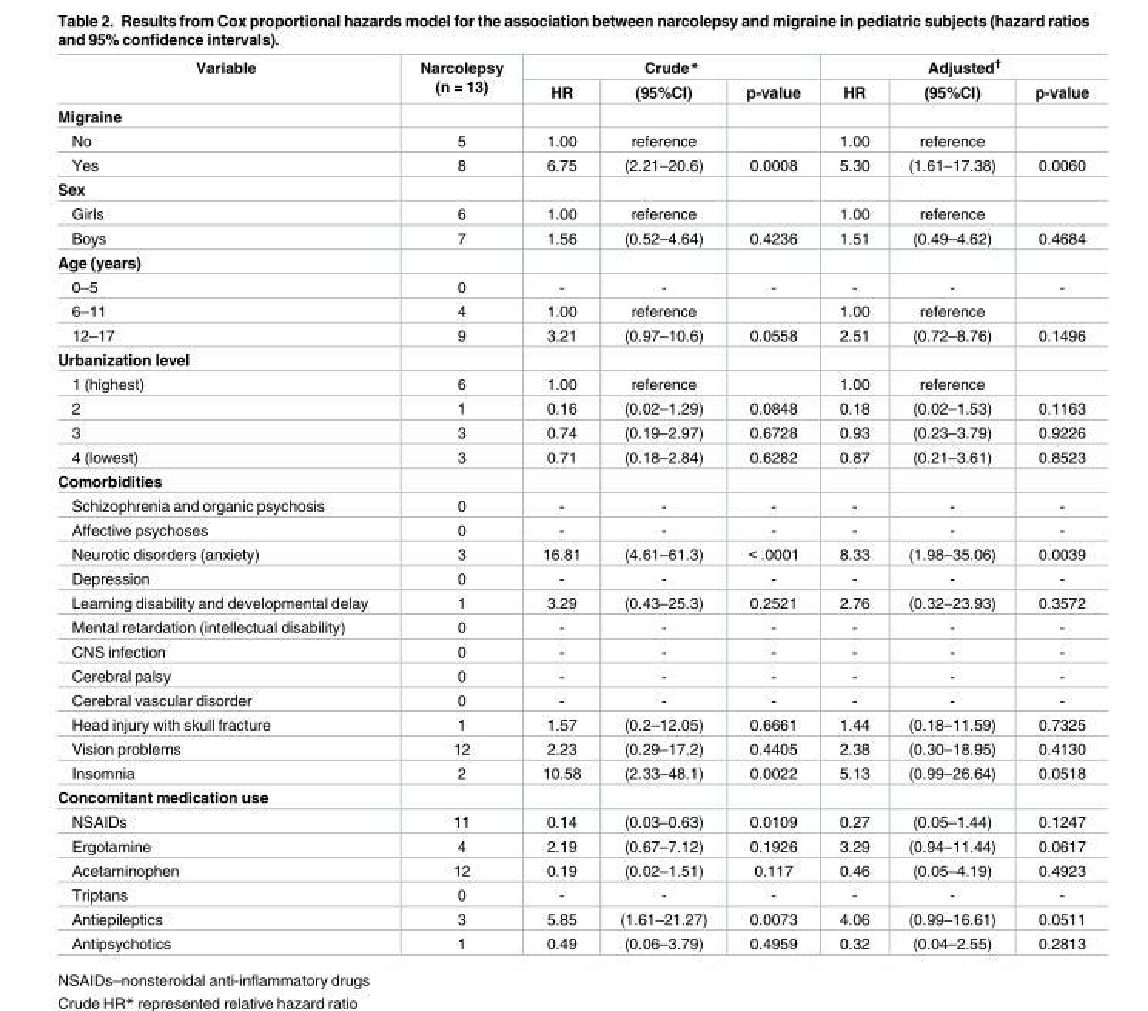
<table><thead><tr><td rowspan="2">Variable</td><td rowspan="2">Narcolepsy (n = 13)</td><td colspan="3">Crude*</td><td colspan="3">Adjusted<sup>†</sup></td></tr><tr><td>HR</td><td>(95%CI)</td><td>p-value</td><td>HR</td><td>(95%CI)</td><td>p-value</td></tr></thead><tbody><tr><td colspan="8">Migraine</td></tr><tr><td>No</td><td>5</td><td>1.00</td><td>reference</td><td></td><td>1.00</td><td>reference</td><td></td></tr><tr><td>Yes</td><td>8</td><td>6.75</td><td>(2.21–20.6)</td><td>0.0008</td><td>5.30</td><td>(1.61–17.38)</td><td>0.0060</td></tr><tr><td colspan="8">Sex</td></tr><tr><td>Girls</td><td>6</td><td>1.00</td><td>reference</td><td></td><td>1.00</td><td>reference</td><td></td></tr><tr><td>Boys</td><td>7</td><td>1.56</td><td>(0.52–4.64)</td><td>0.4236</td><td>1.51</td><td>(0.49–4.62)</td><td>0.4684</td></tr><tr><td colspan="8">Age (years)</td></tr><tr><td>0–5</td><td>0</td><td>-</td><td>-</td><td>-</td><td>-</td><td>-</td><td>-</td></tr><tr><td>6–11</td><td>4</td><td>1.00</td><td>reference</td><td></td><td>1.00</td><td>reference</td><td></td></tr><tr><td>12–17</td><td>9</td><td>3.21</td><td>(0.97–10.6)</td><td>0.0558</td><td>2.51</td><td>(0.72–8.76)</td><td>0.1496</td></tr><tr><td colspan="8">Urbanization level</td></tr><tr><td>1 (highest)</td><td>6</td><td>1.00</td><td>reference</td><td></td><td>1.00</td><td>reference</td><td></td></tr><tr><td>2</td><td>1</td><td>0.16</td><td>(0.02–1.29)</td><td>0.0848</td><td>0.18</td><td>(0.02–1.53)</td><td>0.1163</td></tr><tr><td>3</td><td>3</td><td>0.74</td><td>(0.19–2.97)</td><td>0.6728</td><td>0.93</td><td>(0.23–3.79)</td><td>0.9226</td></tr><tr><td>4 (lowest)</td><td>3</td><td>0.71</td><td>(0.18–2.84)</td><td>0.6282</td><td>0.87</td><td>(0.21–3.61)</td><td>0.8523</td></tr><tr><td colspan="8">Comorbidities</td></tr><tr><td>Schizophrenia and organic psychosis</td><td>0</td><td>-</td><td>-</td><td>-</td><td>-</td><td>-</td><td>-</td></tr><tr><td>Affective psychoses</td><td>0</td><td>-</td><td>-</td><td>-</td><td>-</td><td>-</td><td>-</td></tr><tr><td>Neurotic disorders (anxiety)</td><td>3</td><td>16.81</td><td>(4.61–61.3)</td><td>&lt; .0001</td><td>8.33</td><td>(1.98–35.06)</td><td>0.0039</td></tr><tr><td>Depression</td><td>0</td><td>-</td><td>-</td><td>-</td><td>-</td><td>-</td><td>-</td></tr><tr><td>Learning disability and developmental delay</td><td>1</td><td>3.29</td><td>(0.43–25.3)</td><td>0.2521</td><td>2.76</td><td>(0.32–23.93)</td><td>0.3572</td></tr><tr><td>Mental retardation (intellectual disability)</td><td>0</td><td>-</td><td>-</td><td>-</td><td>-</td><td>-</td><td>-</td></tr><tr><td>CNS infection</td><td>0</td><td>-</td><td>-</td><td>-</td><td>-</td><td>-</td><td>-</td></tr><tr><td>Cerebral palsy</td><td>0</td><td>-</td><td>-</td><td>-</td><td>-</td><td>-</td><td>-</td></tr><tr><td>Cerebral vascular disorder</td><td>0</td><td>-</td><td>-</td><td>-</td><td>-</td><td>-</td><td>-</td></tr><tr><td>Head injury with skull fracture</td><td>1</td><td>1.57</td><td>(0.2–12.05)</td><td>0.6661</td><td>1.44</td><td>(0.18–11.59)</td><td>0.7325</td></tr><tr><td>Vision problems</td><td>12</td><td>2.23</td><td>(0.29–17.2)</td><td>0.4405</td><td>2.38</td><td>(0.30–18.95)</td><td>0.4130</td></tr><tr><td>Insomnia</td><td>2</td><td>10.58</td><td>(2.33–48.1)</td><td>0.0022</td><td>5.13</td><td>(0.99–26.64)</td><td>0.0518</td></tr><tr><td colspan="8">Concomitant medication use</td></tr><tr><td>NSAIDs</td><td>11</td><td>0.14</td><td>(0.03–0.63)</td><td>0.0109</td><td>0.27</td><td>(0.05–1.44)</td><td>0.1247</td></tr><tr><td>Ergotamine</td><td>4</td><td>2.19</td><td>(0.67–7.12)</td><td>0.1926</td><td>3.29</td><td>(0.94–11.44)</td><td>0.0617</td></tr><tr><td>Acetaminophen</td><td>12</td><td>0.19</td><td>(0.02–1.51)</td><td>0.117</td><td>0.46</td><td>(0.05–4.19)</td><td>0.4923</td></tr><tr><td>Triptans</td><td>0</td><td>-</td><td>-</td><td>-</td><td>-</td><td>-</td><td>-</td></tr><tr><td>Antiepileptics</td><td>3</td><td>5.85</td><td>(1.61–21.27)</td><td>0.0073</td><td>4.06</td><td>(0.99–16.61)</td><td>0.0511</td></tr><tr><td>Antipsychotics</td><td>1</td><td>0.49</td><td>(0.06–3.79)</td><td>0.4959</td><td>0.32</td><td>(0.04–2.55)</td><td>0.2813</td></tr></tbody></table>